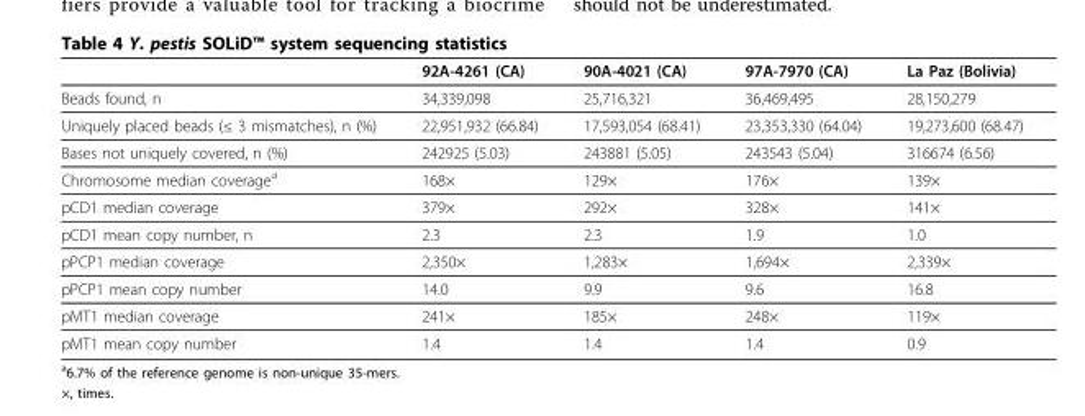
<table><thead><tr><td></td><td>92A-4261 (CA)</td><td>90A-4021 (CA)</td><td>97A-7970 (CA)</td><td>La Paz (Bolivia)</td></tr></thead><tbody><tr><td>Beads found, n</td><td>34,339,098</td><td>25,716,321</td><td>36,469,495</td><td>28,150,279</td></tr><tr><td>Uniquely placed beads (≤ 3 mismatches), n (%)</td><td>22,951,932 (66.84)</td><td>17,593,054 (68.41)</td><td>23,353,330 (64.04)</td><td>19,273,600 (68.47)</td></tr><tr><td>Bases not uniquely covered, n (%)</td><td>242925 (5.03)</td><td>243881 (5.05)</td><td>243543 (5.04)</td><td>316674 (6.56)</td></tr><tr><td>Chromosome median coverage<sup>a</sup></td><td>168×</td><td>129×</td><td>176×</td><td>139×</td></tr><tr><td>pCD1 median coverage</td><td>379×</td><td>292×</td><td>328×</td><td>141×</td></tr><tr><td>pCD1 mean copy number, n</td><td>2.3</td><td>2.3</td><td>1.9</td><td>1.0</td></tr><tr><td>pPCP1 median coverage</td><td>2,350×</td><td>1,283×</td><td>1,694×</td><td>2,339×</td></tr><tr><td>pPCP1 mean copy number</td><td>14.0</td><td>9.9</td><td>9.6</td><td>16.8</td></tr><tr><td>pMT1 median coverage</td><td>241×</td><td>185×</td><td>248×</td><td>119×</td></tr><tr><td>pMT1 mean copy number</td><td>1.4</td><td>1.4</td><td>1.4</td><td>0.9</td></tr></tbody></table>